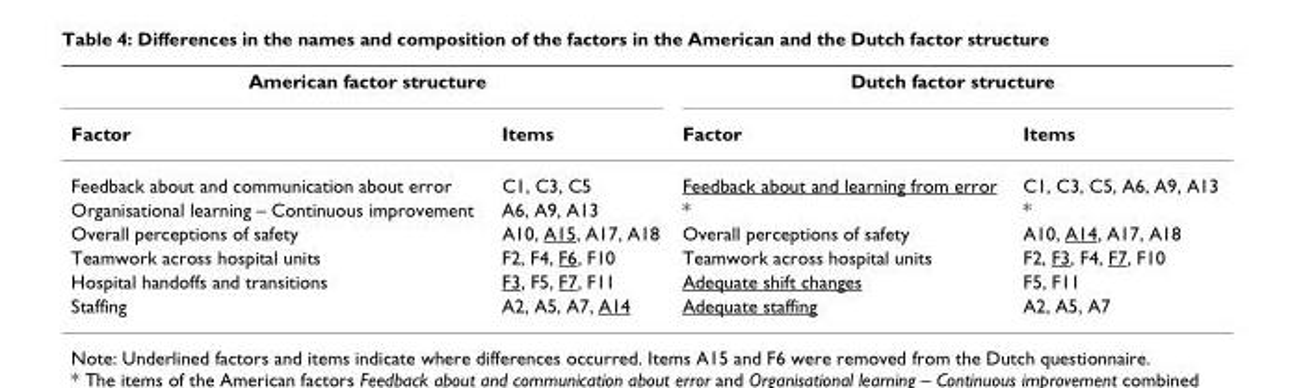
<table><thead><tr><td colspan="2">American factor structure</td><td colspan="2">Dutch factor structure</td></tr><tr><td>Factor</td><td>Items</td><td>Factor</td><td>Items</td></tr></thead><tbody><tr><td>Feedback about and communication about error</td><td>C1, C3, C5</td><td>Feedback about and learning from error</td><td>C1, C3, C5, A6, A9, A13</td></tr><tr><td>Organisational learning – Continuous improvement</td><td>A6, A9, A13</td><td>*</td><td>*</td></tr><tr><td>Overall perceptions of safety</td><td>A10, A15, A17, A18</td><td>Overall perceptions of safety</td><td>A10, A14, A17, A18</td></tr><tr><td>Teamwork across hospital units</td><td>F2, F4, F6, F10</td><td>Teamwork across hospital units</td><td>F2, F3, F4, F7, F10</td></tr><tr><td>Hospital handoffs and transitions</td><td>F3, F5, F7, F11</td><td>Adequate shift changes</td><td>F5, F11</td></tr><tr><td>Staffing</td><td>A2, A5, A7, A14</td><td>Adequate staffing</td><td>A2, A5, A7</td></tr></tbody></table>